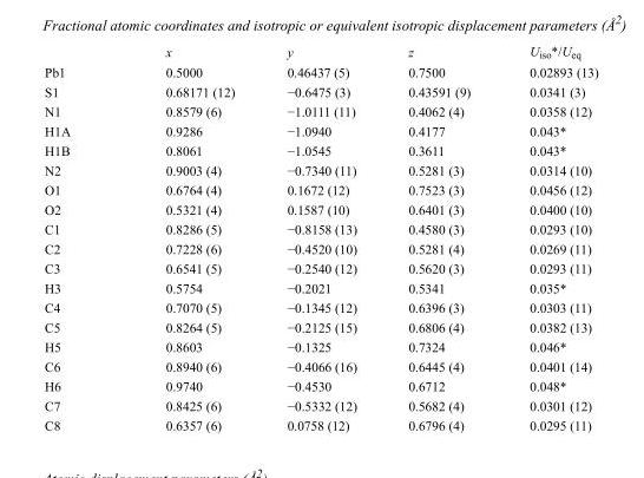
<table><thead><tr><td></td><td>x</td><td>y</td><td>z</td><td>U<sub>iso</sub>*/U<sub>eq</sub></td></tr></thead><tbody><tr><td>Pb1</td><td>0.5000</td><td>0.46437 (5)</td><td>0.7500</td><td>0.02893 (13)</td></tr><tr><td>S1</td><td>0.68171 (12)</td><td>−0.6475 (3)</td><td>0.43591 (9)</td><td>0.0341 (3)</td></tr><tr><td>N1</td><td>0.8579 (6)</td><td>−1.0111 (11)</td><td>0.4062 (4)</td><td>0.0358 (12)</td></tr><tr><td>H1A</td><td>0.9286</td><td>−1.0940</td><td>0.4177</td><td>0.043*</td></tr><tr><td>H1B</td><td>0.8061</td><td>−1.0545</td><td>0.3611</td><td>0.043*</td></tr><tr><td>N2</td><td>0.9003 (4)</td><td>−0.7340 (11)</td><td>0.5281 (3)</td><td>0.0314 (10)</td></tr><tr><td>O1</td><td>0.6764 (4)</td><td>0.1672 (12)</td><td>0.7523 (3)</td><td>0.0456 (12)</td></tr><tr><td>O2</td><td>0.5321 (4)</td><td>0.1587 (10)</td><td>0.6401 (3)</td><td>0.0400 (10)</td></tr><tr><td>C1</td><td>0.8286 (5)</td><td>−0.8158 (13)</td><td>0.4580 (3)</td><td>0.0293 (10)</td></tr><tr><td>C2</td><td>0.7228 (6)</td><td>−0.4520 (10)</td><td>0.5281 (4)</td><td>0.0269 (11)</td></tr><tr><td>C3</td><td>0.6541 (5)</td><td>−0.2540 (12)</td><td>0.5620 (3)</td><td>0.0293 (11)</td></tr><tr><td>H3</td><td>0.5754</td><td>−0.2021</td><td>0.5341</td><td>0.035*</td></tr><tr><td>C4</td><td>0.7070 (5)</td><td>−0.1345 (12)</td><td>0.6396 (3)</td><td>0.0303 (11)</td></tr><tr><td>C5</td><td>0.8264 (5)</td><td>−0.2125 (15)</td><td>0.6806 (4)</td><td>0.0382 (13)</td></tr><tr><td>H5</td><td>0.8603</td><td>−0.1325</td><td>0.7324</td><td>0.046*</td></tr><tr><td>C6</td><td>0.8940 (6)</td><td>−0.4066 (16)</td><td>0.6445 (4)</td><td>0.0401 (14)</td></tr><tr><td>H6</td><td>0.9740</td><td>−0.4530</td><td>0.6712</td><td>0.048*</td></tr><tr><td>C7</td><td>0.8425 (6)</td><td>−0.5332 (12)</td><td>0.5682 (4)</td><td>0.0301 (12)</td></tr><tr><td>C8</td><td>0.6357 (6)</td><td>0.0758 (12)</td><td>0.6796 (4)</td><td>0.0295 (11)</td></tr></tbody></table>